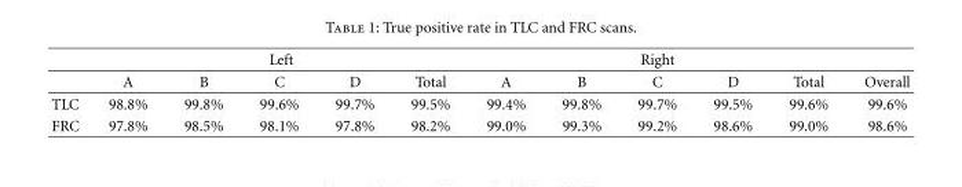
<table><thead><tr><td rowspan="2"></td><td colspan="5">Left</td><td colspan="5">Right</td><td rowspan="2">Overall</td></tr><tr><td>A</td><td>B</td><td>C</td><td>D</td><td>Total</td><td>A</td><td>B</td><td>C</td><td>D</td><td>Total</td></tr></thead><tbody><tr><td>TLC</td><td>98.8%</td><td>99.8%</td><td>99.6%</td><td>99.7%</td><td>99.5%</td><td>99.4%</td><td>99.8%</td><td>99.7%</td><td>99.5%</td><td>99.6%</td><td>99.6%</td></tr><tr><td>FRC</td><td>97.8%</td><td>98.5%</td><td>98.1%</td><td>97.8%</td><td>98.2%</td><td>99.0%</td><td>99.3%</td><td>99.2%</td><td>98.6%</td><td>99.0%</td><td>98.6%</td></tr></tbody></table>